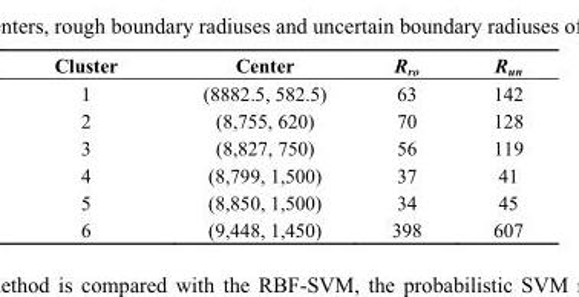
<table><thead><tr><td>Cluster</td><td>Center</td><td>R<sub>ro</sub></td><td>R<sub>un</sub></td></tr></thead><tbody><tr><td>1</td><td>(8882.5, 582.5)</td><td>63</td><td>142</td></tr><tr><td>2</td><td>(8,755, 620)</td><td>70</td><td>128</td></tr><tr><td>3</td><td>(8,827, 750)</td><td>56</td><td>119</td></tr><tr><td>4</td><td>(8,799, 1,500)</td><td>37</td><td>41</td></tr><tr><td>5</td><td>(8,850, 1,500)</td><td>34</td><td>45</td></tr><tr><td>6</td><td>(9,448, 1,450)</td><td>398</td><td>607</td></tr></tbody></table>